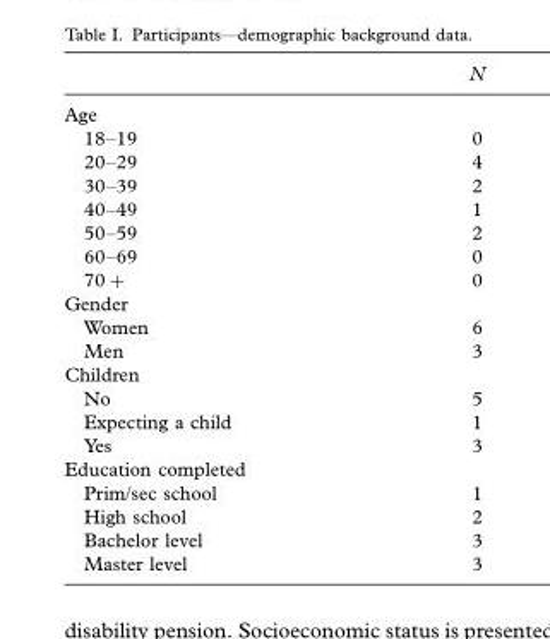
<table><thead><tr><td></td><td>N</td></tr></thead><tbody><tr><td colspan="2">Age</td></tr><tr><td>18–19</td><td>0</td></tr><tr><td>20–29</td><td>4</td></tr><tr><td>30–39</td><td>2</td></tr><tr><td>40–49</td><td>1</td></tr><tr><td>50–59</td><td>2</td></tr><tr><td>60–69</td><td>0</td></tr><tr><td>70+</td><td>0</td></tr><tr><td colspan="2">Gender</td></tr><tr><td>Women</td><td>6</td></tr><tr><td>Men</td><td>3</td></tr><tr><td colspan="2">Children</td></tr><tr><td>No</td><td>5</td></tr><tr><td>Expecting a child</td><td>1</td></tr><tr><td>Yes</td><td>3</td></tr><tr><td colspan="2">Education completed</td></tr><tr><td>Prim/sec school</td><td>1</td></tr><tr><td>High school</td><td>2</td></tr><tr><td>Bachelor level</td><td>3</td></tr><tr><td>Master level</td><td>3</td></tr></tbody></table>